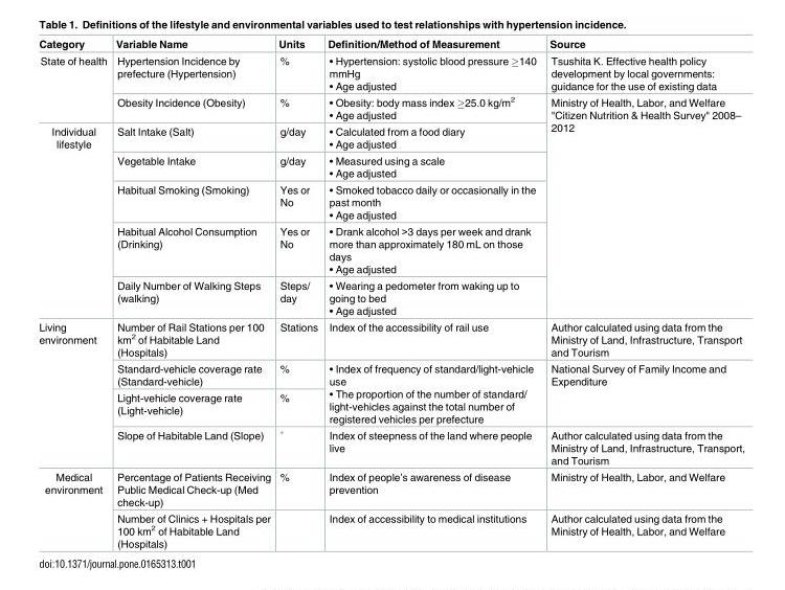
<table><thead><tr><td>Category</td><td>Variable Name</td><td>Units</td><td>Definition/Method of Measurement</td><td>Source</td></tr></thead><tbody><tr><td rowspan="2">State of health</td><td>Hypertension Incidence by prefecture (Hypertension)</td><td>%</td><td>• Hypertension: systolic blood pressure ≥140 mmHg • Age adjusted</td><td>Tsushita K. Effective health policy development by local governments: guidance for the use of existing data</td></tr><tr><td>Obesity Incidence (Obesity)</td><td>%</td><td>• Obesity: body mass index �25.0 kg/m2 • Age adjusted</td><td rowspan="6">Ministry of Health, Labor, and Welfare &quot;Citizen Nutrition &amp; Health Survey&quot; 2008– 2012</td></tr><tr><td rowspan="5">Individual lifestyle</td><td>Salt Intake (Salt)</td><td>g/day</td><td>• Calculated from a food diary • Age adjusted</td></tr><tr><td>Vegetable Intake</td><td>g/day</td><td>• Measured using a scale • Age adjusted</td></tr><tr><td>Habitual Smoking (Smoking)</td><td>Yes or No</td><td>• Smoked tobacco daily or occasionally in the past month • Age adjusted</td></tr><tr><td>Habitual Alcohol Consumption (Drinking)</td><td>Yes or No</td><td>• Drank alcohol &gt;3 days per week and drank more than approximately 180 mL on those days • Age adjusted</td></tr><tr><td>Daily Number of Walking Steps (walking)</td><td>Steps/ day</td><td>• Wearing a pedometer from waking up to going to bed • Age adjusted</td></tr><tr><td rowspan="4">Living environment</td><td>Number of Rail Stations per 100 km<sup>2</sup> of Habitable Land (Hospitals)</td><td>Stations</td><td>Index of the accessibility of rail use</td><td>Author calculated using data from the Ministry of Land, Infrastructure, Transport and Tourism</td></tr><tr><td>Standard-vehicle coverage rate (Standard-vehicle)</td><td>%</td><td rowspan="2">• Index of frequency of standard/light-vehicle use • The proportion of the number of standard/ light-vehicles against the total number of registered vehicles per prefecture</td><td rowspan="2">National Survey of Family Income and Expenditure</td></tr><tr><td>Light-vehicle coverage rate (Light-vehicle)</td><td>%</td></tr><tr><td>Slope of Habitable Land (Slope)</td><td>˚</td><td>Index of steepness of the land where people live</td><td>Author calculated using data from the Ministry of Land, Infrastructure, Transport, and Tourism</td></tr><tr><td rowspan="2">Medical environment</td><td>Percentage of Patients Receiving Public Medical Check-up (Med check-up)</td><td>%</td><td>Index of people’s awareness of disease prevention</td><td>Ministry of Health, Labor, and Welfare</td></tr><tr><td>Number of Clinics + Hospitals per 100 km<sup>2</sup> of Habitable Land (Hospitals)</td><td></td><td>Index of accessibility to medical institutions</td><td>Author calculated using data from the Ministry of Health, Labor, and Welfare</td></tr></tbody></table>